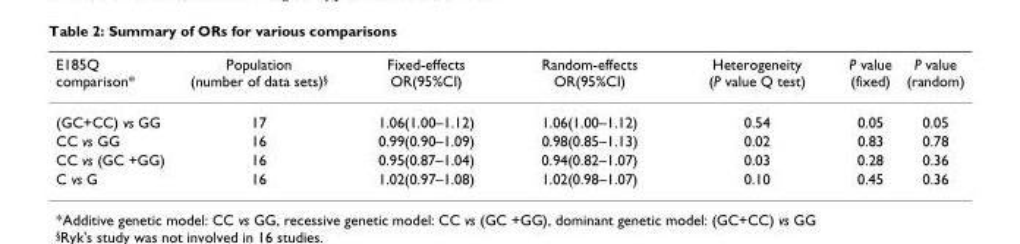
<table><thead><tr><td>E185Q comparison*</td><td>Population (number of data sets)<sup>§</sup></td><td>Fixed-effects OR(95%CI)</td><td>Random-effects OR(95%CI)</td><td>Heterogeneity (P value Q test)</td><td>P value (fixed)</td><td>P value (random)</td></tr></thead><tbody><tr><td>(GC+CC) vs GG</td><td>17</td><td>1.06(1.00–1.12)</td><td>1.06(1.00–1.12)</td><td>0.54</td><td>0.05</td><td>0.05</td></tr><tr><td>CC vs GG</td><td>16</td><td>0.99(0.90–1.09)</td><td>0.98(0.85–1.13)</td><td>0.02</td><td>0.83</td><td>0.78</td></tr><tr><td>CC vs (GC +GG)</td><td>16</td><td>0.95(0.87–1.04)</td><td>0.94(0.82–1.07)</td><td>0.03</td><td>0.28</td><td>0.36</td></tr><tr><td>C vs G</td><td>16</td><td>1.02(0.97–1.08)</td><td>1.02(0.98–1.07)</td><td>0.10</td><td>0.45</td><td>0.36</td></tr></tbody></table>